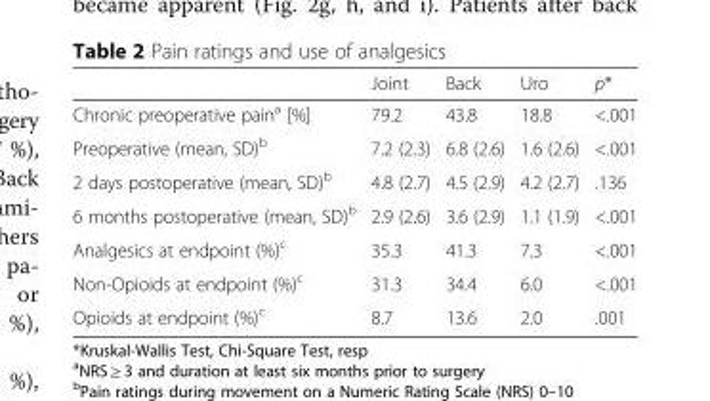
<table><thead><tr><td></td><td>Joint</td><td>Back</td><td>Uro</td><td>p*</td></tr></thead><tbody><tr><td>Chronic preoperative pain<sup>a</sup> [%]</td><td>79.2</td><td>43.8</td><td>18.8</td><td>&lt;.001</td></tr><tr><td>Preoperative (mean, SD)<sup>b</sup></td><td>7.2 (2.3)</td><td>6.8 (2.6)</td><td>1.6 (2.6)</td><td>&lt;.001</td></tr><tr><td>2 days postoperative (mean, SD)<sup>b</sup></td><td>4.8 (2.7)</td><td>4.5 (2.9)</td><td>4.2 (2.7)</td><td>.136</td></tr><tr><td>6 months postoperative (mean, SD)<sup>b</sup></td><td>2.9 (2.6)</td><td>3.6 (2.9)</td><td>1.1 (1.9)</td><td>&lt;.001</td></tr><tr><td>Analgesics at endpoint (%)<sup>c</sup></td><td>35.3</td><td>41.3</td><td>7.3</td><td>&lt;.001</td></tr><tr><td>Non-Opioids at endpoint (%)<sup>c</sup></td><td>31.3</td><td>34.4</td><td>6.0</td><td>&lt;.001</td></tr><tr><td>Opioids at endpoint (%)<sup>c</sup></td><td>8.7</td><td>13.6</td><td>2.0</td><td>.001</td></tr></tbody></table>